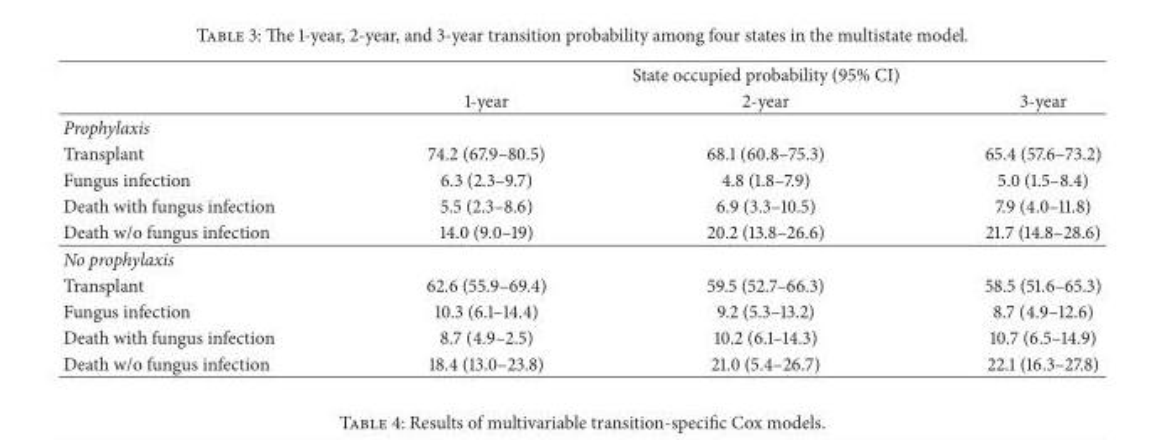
<table><thead><tr><td rowspan="2"></td><td colspan="3">State occupied probability (95% CI)</td></tr><tr><td>1-year</td><td>2-year</td><td>3-year</td></tr></thead><tbody><tr><td colspan="4">Prophylaxis</td></tr><tr><td>Transplant</td><td>74.2 (67.9–80.5)</td><td>68.1 (60.8–75.3)</td><td>65.4 (57.6–73.2)</td></tr><tr><td>Fungus infection</td><td>6.3 (2.3–9.7)</td><td>4.8 (1.8–7.9)</td><td>5.0 (1.5–8.4)</td></tr><tr><td>Death with fungus infection</td><td>5.5 (2.3–8.6)</td><td>6.9 (3.3–10.5)</td><td>7.9 (4.0–11.8)</td></tr><tr><td>Death w/o fungus infection</td><td>14.0 (9.0–19)</td><td>20.2 (13.8–26.6)</td><td>21.7 (14.8–28.6)</td></tr><tr><td colspan="4">No prophylaxis</td></tr><tr><td>Transplant</td><td>62.6 (55.9–69.4)</td><td>59.5 (52.7–66.3)</td><td>58.5 (51.6–65.3)</td></tr><tr><td>Fungus infection</td><td>10.3 (6.1–14.4)</td><td>9.2 (5.3–13.2)</td><td>8.7 (4.9–12.6)</td></tr><tr><td>Death with fungus infection</td><td>8.7 (4.9–2.5)</td><td>10.2 (6.1–14.3)</td><td>10.7 (6.5–14.9)</td></tr><tr><td>Death w/o fungus infection</td><td>18.4 (13.0–23.8)</td><td>21.0 (5.4–26.7)</td><td>22.1 (16.3–27.8)</td></tr></tbody></table>